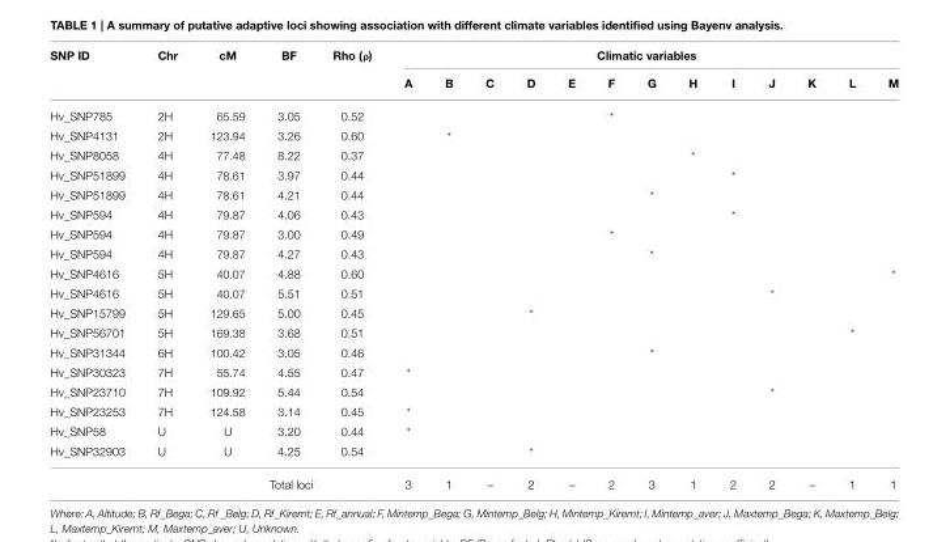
<table><thead><tr><td rowspan="2">SNP ID</td><td rowspan="2">Chr</td><td rowspan="2">cM</td><td rowspan="2">BF</td><td rowspan="2">Rho (ρ)</td><td colspan="13">Climatic variables</td></tr><tr><td>A</td><td>B</td><td>C</td><td>D</td><td>E</td><td>F</td><td>G</td><td>H</td><td>I</td><td>J</td><td>K</td><td>L</td><td>M</td></tr></thead><tbody><tr><td>Hv_SNP785</td><td>2H</td><td>65.59</td><td>3.05</td><td>0.52</td><td></td><td></td><td></td><td></td><td></td><td>*</td><td></td><td></td><td></td><td></td><td></td><td></td><td></td></tr><tr><td>Hv_SNP4131</td><td>2H</td><td>123.94</td><td>3.26</td><td>0.60</td><td></td><td>*</td><td></td><td></td><td></td><td></td><td></td><td></td><td></td><td></td><td></td><td></td><td></td></tr><tr><td>Hv_SNP8058</td><td>4H</td><td>77.48</td><td>8.22</td><td>0.37</td><td></td><td></td><td></td><td></td><td></td><td></td><td></td><td>*</td><td></td><td></td><td></td><td></td><td></td></tr><tr><td>Hv_SNP51899</td><td>4H</td><td>78.61</td><td>3.97</td><td>0.44</td><td></td><td></td><td></td><td></td><td></td><td></td><td></td><td></td><td>*</td><td></td><td></td><td></td><td></td></tr><tr><td>Hv_SNP51899</td><td>4H</td><td>78.61</td><td>4.21</td><td>0.44</td><td></td><td></td><td></td><td></td><td></td><td></td><td>*</td><td></td><td></td><td></td><td></td><td></td><td></td></tr><tr><td>Hv_SNP594</td><td>4H</td><td>79.87</td><td>4.06</td><td>0.43</td><td></td><td></td><td></td><td></td><td></td><td></td><td></td><td></td><td>*</td><td></td><td></td><td></td><td></td></tr><tr><td>Hv_SNP594</td><td>4H</td><td>79.87</td><td>3.00</td><td>0.49</td><td></td><td></td><td></td><td></td><td></td><td>*</td><td></td><td></td><td></td><td></td><td></td><td></td><td></td></tr><tr><td>Hv_SNP594</td><td>4H</td><td>79.87</td><td>4.27</td><td>0.43</td><td></td><td></td><td></td><td></td><td></td><td></td><td>*</td><td></td><td></td><td></td><td></td><td></td><td></td></tr><tr><td>Hv_SNP4616</td><td>5H</td><td>40.07</td><td>4.88</td><td>0.60</td><td></td><td></td><td></td><td></td><td></td><td></td><td></td><td></td><td></td><td></td><td></td><td></td><td>*</td></tr><tr><td>Hv_SNP4616</td><td>5H</td><td>40.07</td><td>5.51</td><td>0.51</td><td></td><td></td><td></td><td></td><td></td><td></td><td></td><td></td><td></td><td>*</td><td></td><td></td><td></td></tr><tr><td>Hv_SNP15799</td><td>5H</td><td>129.65</td><td>5.00</td><td>0.45</td><td></td><td></td><td></td><td>*</td><td></td><td></td><td></td><td></td><td></td><td></td><td></td><td></td><td></td></tr><tr><td>Hv_SNP56701</td><td>5H</td><td>169.38</td><td>3.68</td><td>0.51</td><td></td><td></td><td></td><td></td><td></td><td></td><td></td><td></td><td></td><td></td><td></td><td>*</td><td></td></tr><tr><td>Hv_SNP31344</td><td>6H</td><td>100.42</td><td>3.05</td><td>0.46</td><td></td><td></td><td></td><td></td><td></td><td></td><td>*</td><td></td><td></td><td></td><td></td><td></td><td></td></tr><tr><td>Hv_SNP30323</td><td>7H</td><td>55.74</td><td>4.55</td><td>0.47</td><td>*</td><td></td><td></td><td></td><td></td><td></td><td></td><td></td><td></td><td></td><td></td><td></td><td></td></tr><tr><td>Hv_SNP23710</td><td>7H</td><td>109.92</td><td>5.44</td><td>0.54</td><td></td><td></td><td></td><td></td><td></td><td></td><td></td><td></td><td></td><td>*</td><td></td><td></td><td></td></tr><tr><td>Hv_SNP23253</td><td>7H</td><td>124.58</td><td>3.14</td><td>0.45</td><td>*</td><td></td><td></td><td></td><td></td><td></td><td></td><td></td><td></td><td></td><td></td><td></td><td></td></tr><tr><td>Hv_SNP58</td><td>U</td><td>U</td><td>3.20</td><td>0.44</td><td>*</td><td></td><td></td><td></td><td></td><td></td><td></td><td></td><td></td><td></td><td></td><td></td><td></td></tr><tr><td rowspan="2">Hv_SNP32903</td><td>U</td><td>U</td><td>4.25</td><td>0.54</td><td></td><td></td><td></td><td>*</td><td></td><td></td><td></td><td></td><td></td><td></td><td></td><td></td><td></td></tr><tr><td></td><td colspan="3">Total loci</td><td>3</td><td>1</td><td>–</td><td>2</td><td>–</td><td>2</td><td>3</td><td>1</td><td>2</td><td>2</td><td>–</td><td>1</td><td>1</td></tr></tbody></table>